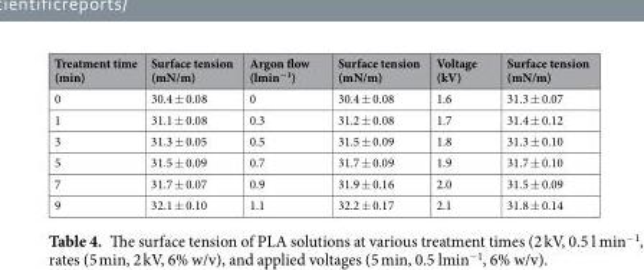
<table><thead><tr><td>Treatment time (min)</td><td>Surface tension (mN/m)</td><td>Argon flow (lmin<sup>−1</sup>)</td><td>Surface tension (mN/m)</td><td>Voltage (kV)</td><td>Surface tension (mN/m)</td></tr></thead><tbody><tr><td>0</td><td>30.4 ± 0.08</td><td>0</td><td>30.4 ± 0.08</td><td>1.6</td><td>31.3 ± 0.07</td></tr><tr><td>1</td><td>31.1 ± 0.08</td><td>0.3</td><td>31.2 ± 0.08</td><td>1.7</td><td>31.4 ± 0.12</td></tr><tr><td>3</td><td>31.3 ± 0.05</td><td>0.5</td><td>31.5 ± 0.09</td><td>1.8</td><td>31.3 ± 0.10</td></tr><tr><td>5</td><td>31.5 ± 0.09</td><td>0.7</td><td>31.7 ± 0.09</td><td>1.9</td><td>31.7 ± 0.10</td></tr><tr><td>7</td><td>31.7 ± 0.07</td><td>0.9</td><td>31.9 ± 0.16</td><td>2.0</td><td>31.5 ± 0.09</td></tr><tr><td>9</td><td>32.1 ± 0.10</td><td>1.1</td><td>32.2 ± 0.17</td><td>2.1</td><td>31.8 ± 0.14</td></tr></tbody></table>